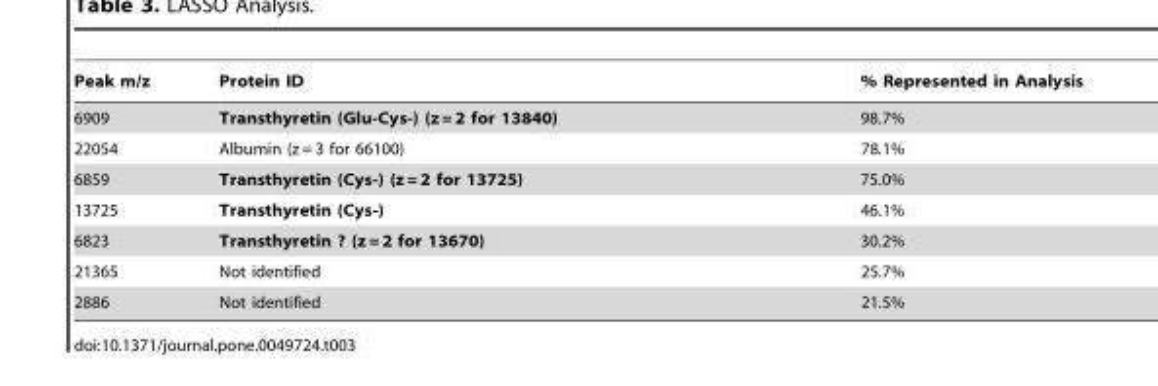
<table><thead><tr><td>Peak m/z</td><td>Protein ID</td><td>% Represented in Analysis</td></tr></thead><tbody><tr><td>6909</td><td>Transthyretin (Glu-Cys-) (z = 2 for 13840)</td><td>98.7%</td></tr><tr><td>22054</td><td>Albumin (z = 3 for 66100)</td><td>78.1%</td></tr><tr><td>6859</td><td>Transthyretin (Cys-) (z = 2 for 13725)</td><td>75.0%</td></tr><tr><td>13725</td><td>Transthyretin (Cys-)</td><td>46.1%</td></tr><tr><td>6823</td><td>Transthyretin ? (z = 2 for 13670)</td><td>30.2%</td></tr><tr><td>21365</td><td>Not identified</td><td>25.7%</td></tr><tr><td>2886</td><td>Not identified</td><td>21.5%</td></tr></tbody></table>